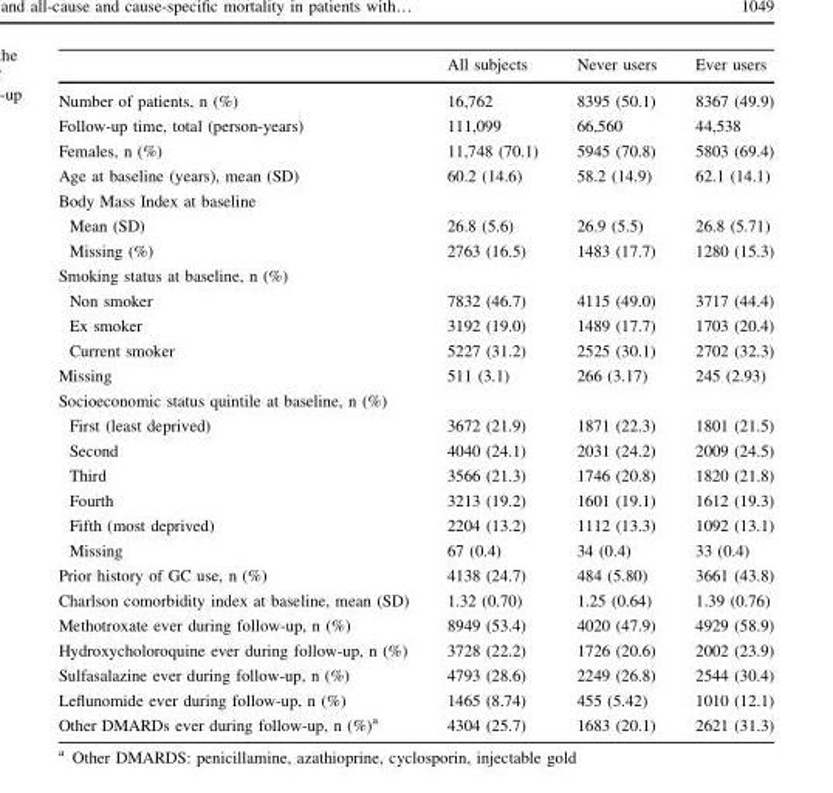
<table><thead><tr><td></td><td>All subjects</td><td>Never users</td><td>Ever users</td></tr></thead><tbody><tr><td>Number of patients, n (%)</td><td>16,762</td><td>8395 (50.1)</td><td>8367 (49.9)</td></tr><tr><td>Follow-up time, total (person-years)</td><td>111,099</td><td>66,560</td><td>44,538</td></tr><tr><td>Females, n (%)</td><td>11,748 (70.1)</td><td>5945 (70.8)</td><td>5803 (69.4)</td></tr><tr><td>Age at baseline (years), mean (SD)</td><td>60.2 (14.6)</td><td>58.2 (14.9)</td><td>62.1 (14.1)</td></tr><tr><td colspan="4">Body Mass Index at baseline</td></tr><tr><td>Mean (SD)</td><td>26.8 (5.6)</td><td>26.9 (5.5)</td><td>26.8 (5.71)</td></tr><tr><td>Missing (%)</td><td>2763 (16.5)</td><td>1483 (17.7)</td><td>1280 (15.3)</td></tr><tr><td colspan="4">Smoking status at baseline, n (%)</td></tr><tr><td>Non smoker</td><td>7832 (46.7)</td><td>4115 (49.0)</td><td>3717 (44.4)</td></tr><tr><td>Ex smoker</td><td>3192 (19.0)</td><td>1489 (17.7)</td><td>1703 (20.4)</td></tr><tr><td>Current smoker</td><td>5227 (31.2)</td><td>2525 (30.1)</td><td>2702 (32.3)</td></tr><tr><td>Missing</td><td>511 (3.1)</td><td>266 (3.17)</td><td>245 (2.93)</td></tr><tr><td colspan="4">Socioeconomic status quintile at baseline, n (%)</td></tr><tr><td>First (least deprived)</td><td>3672 (21.9)</td><td>1871 (22.3)</td><td>1801 (21.5)</td></tr><tr><td>Second</td><td>4040 (24.1)</td><td>2031 (24.2)</td><td>2009 (24.5)</td></tr><tr><td>Third</td><td>3566 (21.3)</td><td>1746 (20.8)</td><td>1820 (21.8)</td></tr><tr><td>Fourth</td><td>3213 (19.2)</td><td>1601 (19.1)</td><td>1612 (19.3)</td></tr><tr><td>Fifth (most deprived)</td><td>2204 (13.2)</td><td>1112 (13.3)</td><td>1092 (13.1)</td></tr><tr><td>Missing</td><td>67 (0.4)</td><td>34 (0.4)</td><td>33 (0.4)</td></tr><tr><td>Prior history of GC use, n (%)</td><td>4138 (24.7)</td><td>484 (5.80)</td><td>3661 (43.8)</td></tr><tr><td>Charlson comorbidity index at baseline, mean (SD)</td><td>1.32 (0.70)</td><td>1.25 (0.64)</td><td>1.39 (0.76)</td></tr><tr><td>Methotroxate ever during follow-up, n (%)</td><td>8949 (53.4)</td><td>4020 (47.9)</td><td>4929 (58.9)</td></tr><tr><td>Hydroxycholoroquine ever during follow-up, n (%)</td><td>3728 (22.2)</td><td>1726 (20.6)</td><td>2002 (23.9)</td></tr><tr><td>Sulfasalazine ever during follow-up, n (%)</td><td>4793 (28.6)</td><td>2249 (26.8)</td><td>2544 (30.4)</td></tr><tr><td>Leflunomide ever during follow-up, n (%)</td><td>1465 (8.74)</td><td>455 (5.42)</td><td>1010 (12.1)</td></tr><tr><td>Other DMARDs ever during follow-up, n (%)<sup>a</sup></td><td>4304 (25.7)</td><td>1683 (20.1)</td><td>2621 (31.3)</td></tr></tbody></table>